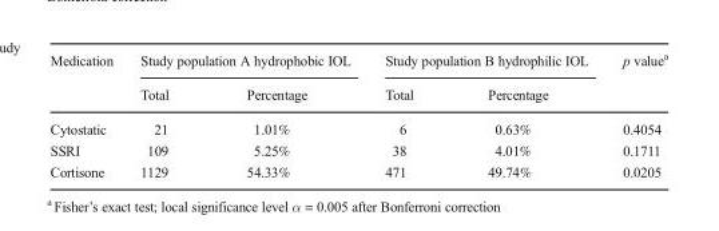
<table><thead><tr><td rowspan="2">Medication</td><td colspan="2">Study population A hydrophobic IOL</td><td colspan="2">Study population B hydrophilic IOL</td><td rowspan="2">p value<sup>a</sup></td></tr><tr><td>Total</td><td>Percentage</td><td>Total</td><td>Percentage</td></tr></thead><tbody><tr><td>Cytostatic</td><td>21</td><td>1.01%</td><td>6</td><td>0.63%</td><td>0.4054</td></tr><tr><td>SSRI</td><td>109</td><td>5.25%</td><td>38</td><td>4.01%</td><td>0.1711</td></tr><tr><td>Cortisone</td><td>1129</td><td>54.33%</td><td>471</td><td>49.74%</td><td>0.0205</td></tr></tbody></table>